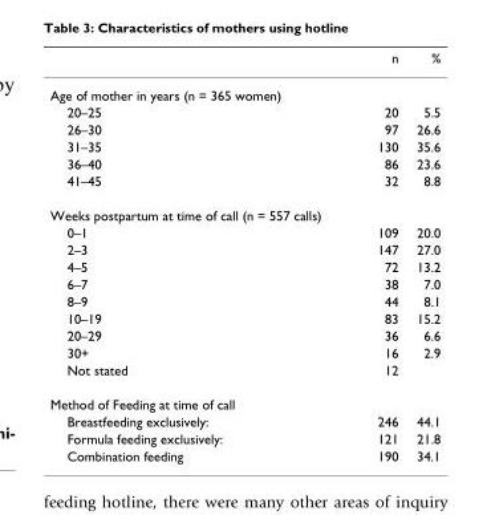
<table><thead><tr><td></td><td>n</td><td>%</td></tr></thead><tbody><tr><td colspan="3">Age of mother in years (n = 365 women)</td></tr><tr><td>20–25</td><td>20</td><td>5.5</td></tr><tr><td>26–30</td><td>97</td><td>26.6</td></tr><tr><td>31–35</td><td>130</td><td>35.6</td></tr><tr><td>36–40</td><td>86</td><td>23.6</td></tr><tr><td>41–45</td><td>32</td><td>8.8</td></tr><tr><td colspan="3">Weeks postpartum at time of call (n = 557 calls)</td></tr><tr><td>0–1</td><td>109</td><td>20.0</td></tr><tr><td>2–3</td><td>147</td><td>27.0</td></tr><tr><td>4–5</td><td>72</td><td>13.2</td></tr><tr><td>6–7</td><td>38</td><td>7.0</td></tr><tr><td>8–9</td><td>44</td><td>8.1</td></tr><tr><td>10–19</td><td>83</td><td>15.2</td></tr><tr><td>20–29</td><td>36</td><td>6.6</td></tr><tr><td>30+</td><td>16</td><td>2.9</td></tr><tr><td>Not stated</td><td>12</td><td></td></tr><tr><td colspan="3">Method of Feeding at time of call</td></tr><tr><td>Breastfeeding exclusively:</td><td>246</td><td>44.1</td></tr><tr><td>Formula feeding exclusively:</td><td>121</td><td>21.8</td></tr><tr><td>Combination feeding</td><td>190</td><td>34.1</td></tr></tbody></table>